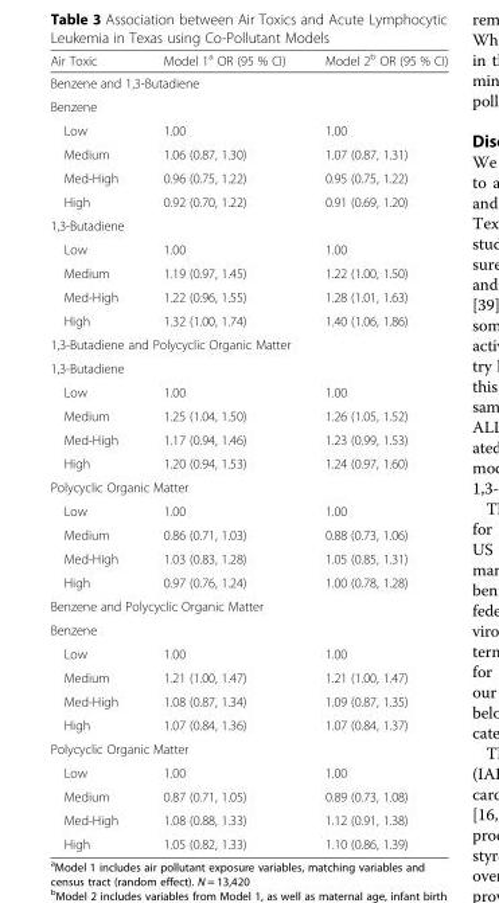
<table><thead><tr><td>Air Toxic</td><td>Model 1<sup>a</sup> OR (95 % CI)</td><td>Model 2<sup>b</sup> OR (95 % CI)</td></tr></thead><tbody><tr><td colspan="3">Benzene and 1,3-Butadiene</td></tr><tr><td colspan="3">Benzene</td></tr><tr><td>Low</td><td>1.00</td><td>1.00</td></tr><tr><td>Medium</td><td>1.06 (0.87, 1.30)</td><td>1.07 (0.87, 1.31)</td></tr><tr><td>Med-High</td><td>0.96 (0.75, 1.22)</td><td>0.95 (0.75, 1.22)</td></tr><tr><td>High</td><td>0.92 (0.70, 1.22)</td><td>0.91 (0.69, 1.20)</td></tr><tr><td colspan="3">1,3-Butadiene</td></tr><tr><td>Low</td><td>1.00</td><td>1.00</td></tr><tr><td>Medium</td><td>1.19 (0.97, 1.45)</td><td>1.22 (1.00, 1.50)</td></tr><tr><td>Med-High</td><td>1.22 (0.96, 1.55)</td><td>1.28 (1.01, 1.63)</td></tr><tr><td>High</td><td>1.32 (1.00, 1.74)</td><td>1.40 (1.06, 1.86)</td></tr><tr><td colspan="3">1,3-Butadiene and Polycyclic Organic Matter</td></tr><tr><td colspan="3">1,3-Butadiene</td></tr><tr><td>Low</td><td>1.00</td><td>1.00</td></tr><tr><td>Medium</td><td>1.25 (1.04, 1.50)</td><td>1.26 (1.05, 1.52)</td></tr><tr><td>Med-High</td><td>1.17 (0.94, 1.46)</td><td>1.23 (0.99, 1.53)</td></tr><tr><td>High</td><td>1.20 (0.94, 1.53)</td><td>1.24 (0.97, 1.60)</td></tr><tr><td colspan="3">Polycyclic Organic Matter</td></tr><tr><td>Low</td><td>1.00</td><td>1.00</td></tr><tr><td>Medium</td><td>0.86 (0.71, 1.03)</td><td>0.88 (0.73, 1.06)</td></tr><tr><td>Med-High</td><td>1.03 (0.83, 1.28)</td><td>1.05 (0.85, 1.31)</td></tr><tr><td>High</td><td>0.97 (0.76, 1.24)</td><td>1.00 (0.78, 1.28)</td></tr><tr><td colspan="3">Benzene and Polycyclic Organic Matter</td></tr><tr><td colspan="3">Benzene</td></tr><tr><td>Low</td><td>1.00</td><td>1.00</td></tr><tr><td>Medium</td><td>1.21 (1.00, 1.47)</td><td>1.21 (1.00, 1.47)</td></tr><tr><td>Med-High</td><td>1.08 (0.87, 1.34)</td><td>1.09 (0.87, 1.35)</td></tr><tr><td>High</td><td>1.07 (0.84, 1.36)</td><td>1.07 (0.84, 1.37)</td></tr><tr><td colspan="3">Polycyclic Organic Matter</td></tr><tr><td>Low</td><td>1.00</td><td>1.00</td></tr><tr><td>Medium</td><td>0.87 (0.71, 1.05)</td><td>0.89 (0.73, 1.08)</td></tr><tr><td>Med-High</td><td>1.08 (0.88, 1.33)</td><td>1.12 (0.91, 1.38)</td></tr><tr><td>High</td><td>1.05 (0.82, 1.33)</td><td>1.10 (0.86, 1.39)</td></tr></tbody></table>